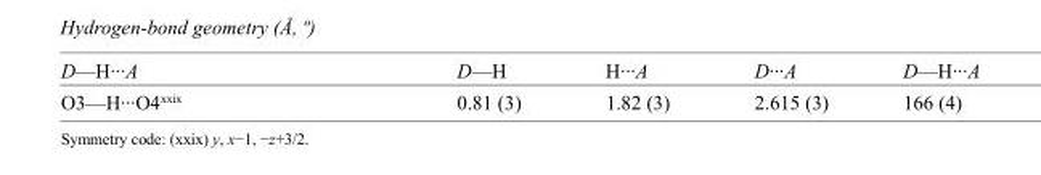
<table><tbody><tr><td>D—H···A</td><td>D—H</td><td>H···A</td><td>D···A</td><td>D—H···A</td></tr><tr><td>O3—H···O4<sup>xxix</sup></td><td>0.81 (3)</td><td>1.82 (3)</td><td>2.615 (3)</td><td>166 (4)</td></tr></tbody></table>